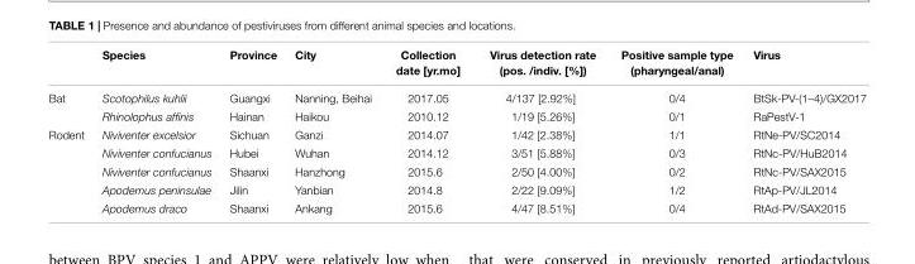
<table><thead><tr><td></td><td>Species</td><td>Province</td><td>City</td><td>Collection date [yr.mo]</td><td>Virus detection rate (pos. /indiv. [%])</td><td>Positive sample type (pharyngeal/anal)</td><td>Virus</td></tr></thead><tbody><tr><td rowspan="2">Bat</td><td>Scotophilus kuhlii</td><td>Guangxi</td><td>Nanning, Beihai</td><td>2017.05</td><td>4/137 [2.92%]</td><td>0/4</td><td>BtSk-PV-(1–4)/GX2017</td></tr><tr><td>Rhinolophus affinis</td><td>Hainan</td><td>Haikou</td><td>2010.12</td><td>1/19 [5.26%]</td><td>0/1</td><td>RaPestV-1</td></tr><tr><td rowspan="5">Rodent</td><td>Niviventer excelsior</td><td>Sichuan</td><td>Ganzi</td><td>2014.07</td><td>1/42 [2.38%]</td><td>1/1</td><td>RtNe-PV/SC2014</td></tr><tr><td>Niviventer confucianus</td><td>Hubei</td><td>Wuhan</td><td>2014.12</td><td>3/51 [5.88%]</td><td>0/3</td><td>RtNc-PV/HuB2014</td></tr><tr><td>Niviventer confucianus</td><td>Shaanxi</td><td>Hanzhong</td><td>2015.6</td><td>2/50 [4.00%]</td><td>0/2</td><td>RtNc-PV/SAX2015</td></tr><tr><td>Apodemus peninsulae</td><td>Jilin</td><td>Yanbian</td><td>2014.8</td><td>2/22 [9.09%]</td><td>1/2</td><td>RtAp-PV/JL2014</td></tr><tr><td>Apodemus draco</td><td>Shaanxi</td><td>Ankang</td><td>2015.6</td><td>4/47 [8.51%]</td><td>0/4</td><td>RtAd-PV/SAX2015</td></tr></tbody></table>